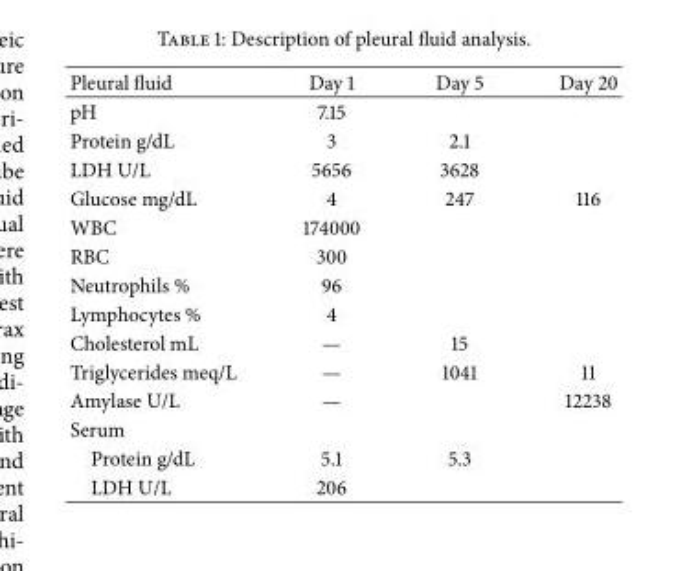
<table><thead><tr><td>Pleural fluid</td><td>Day 1</td><td>Day 5</td><td>Day 20</td></tr></thead><tbody><tr><td>pH</td><td>7.15</td><td></td><td></td></tr><tr><td>Protein g/dL</td><td>3</td><td>2.1</td><td></td></tr><tr><td>LDH U/L</td><td>5656</td><td>3628</td><td></td></tr><tr><td>Glucose mg/dL</td><td>4</td><td>247</td><td>116</td></tr><tr><td>WBC</td><td>174000</td><td></td><td></td></tr><tr><td>RBC</td><td>300</td><td></td><td></td></tr><tr><td>Neutrophils %</td><td>96</td><td></td><td></td></tr><tr><td>Lymphocytes %</td><td>4</td><td></td><td></td></tr><tr><td>Cholesterol mL</td><td>—</td><td>15</td><td></td></tr><tr><td>Triglycerides meq/L</td><td>—</td><td>1041</td><td>11</td></tr><tr><td>Amylase U/L</td><td>—</td><td></td><td>12238</td></tr><tr><td colspan="4">Serum</td></tr><tr><td>Protein g/dL</td><td>5.1</td><td>5.3</td><td></td></tr><tr><td>LDH U/L</td><td>206</td><td></td><td></td></tr></tbody></table>